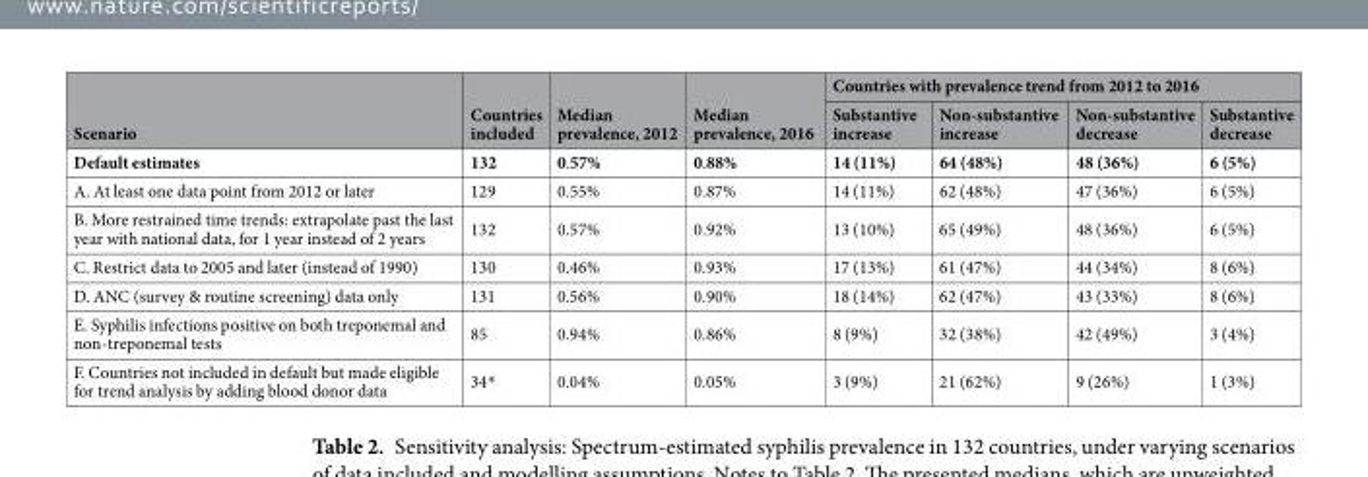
<table><thead><tr><td rowspan="2">Scenario</td><td rowspan="2">Countries included</td><td rowspan="2">Median prevalence, 2012</td><td rowspan="2">Median prevalence, 2016</td><td colspan="4">Countries with prevalence trend from 2012 to 2016</td></tr><tr><td>Substantive increase</td><td>Non-substantive increase</td><td>Non-substantive decrease</td><td>Substantive decrease</td></tr></thead><tbody><tr><td>Default estimates</td><td>132</td><td>0.57%</td><td>0.88%</td><td>14 (11%)</td><td>64 (48%)</td><td>48 (36%)</td><td>6 (5%)</td></tr><tr><td>A. At least one data point from 2012 or later</td><td>129</td><td>0.55%</td><td>0.87%</td><td>14 (11%)</td><td>62 (48%)</td><td>47 (36%)</td><td>6 (5%)</td></tr><tr><td>B. More restrained time trends: extrapolate past the last year with national data, for 1 year instead of 2 years</td><td>132</td><td>0.57%</td><td>0.92%</td><td>13 (10%)</td><td>65 (49%)</td><td>48 (36%)</td><td>6 (5%)</td></tr><tr><td>C. Restrict data to 2005 and later (instead of 1990)</td><td>130</td><td>0.46%</td><td>0.93%</td><td>17 (13%)</td><td>61 (47%)</td><td>44 (34%)</td><td>8 (6%)</td></tr><tr><td>D. ANC (survey &amp; routine screening) data only</td><td>131</td><td>0.56%</td><td>0.90%</td><td>18 (14%)</td><td>62 (47%)</td><td>43 (33%)</td><td>8 (6%)</td></tr><tr><td>E. Syphilis infections positive on both treponemal and non-treponemal tests</td><td>85</td><td>0.94%</td><td>0.86%</td><td>8 (9%)</td><td>32 (38%)</td><td>42 (49%)</td><td>3 (4%)</td></tr><tr><td>F. Countries not included in default but made eligible for trend analysis by adding blood donor data</td><td>34*</td><td>0.04%</td><td>0.05%</td><td>3 (9%)</td><td>21 (62%)</td><td>9 (26%)</td><td>1 (3%)</td></tr></tbody></table>